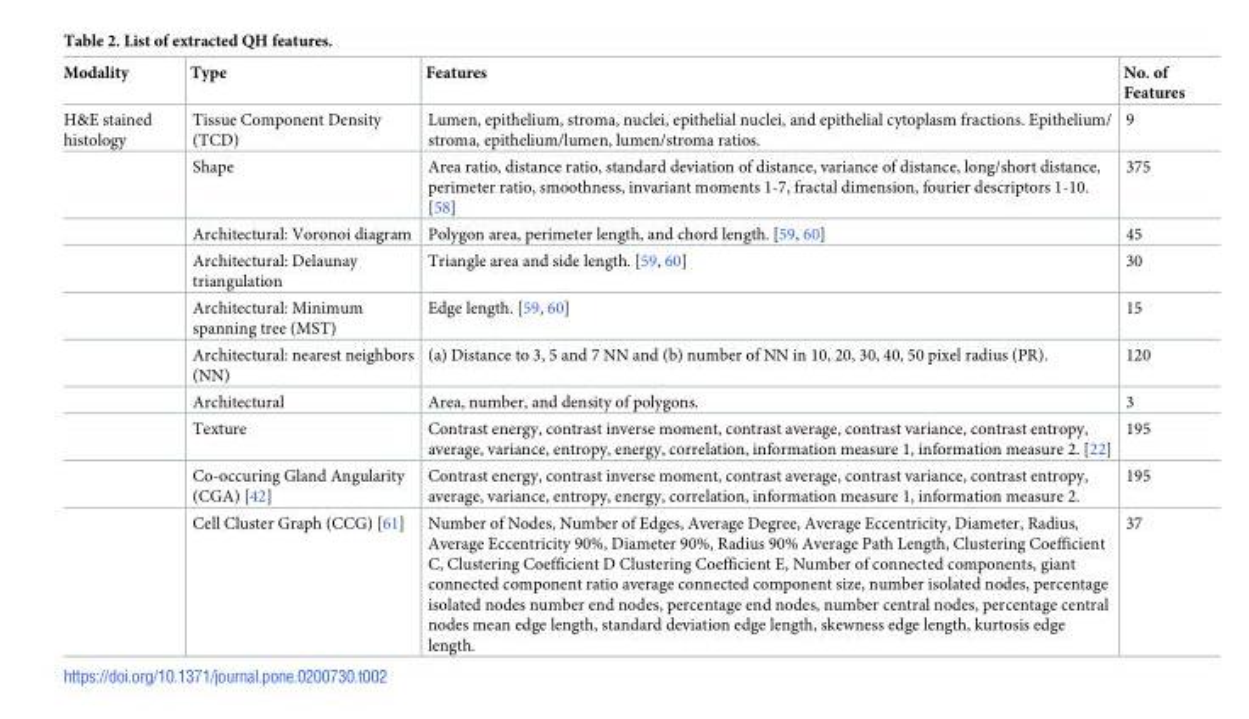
<table><thead><tr><td>Modality</td><td>Type</td><td>Features</td><td>No. of Features</td></tr></thead><tbody><tr><td rowspan="10">H&amp;E stained histology</td><td>Tissue Component Density (TCD)</td><td>Lumen, epithelium, stroma, nuclei, epithelial nuclei, and epithelial cytoplasm fractions. Epithelium/ stroma, epithelium/lumen, lumen/stroma ratios.</td><td>9</td></tr><tr><td>Shape</td><td>Area ratio, distance ratio, standard deviation of distance, variance of distance, long/short distance, perimeter ratio, smoothness, invariant moments 1-7, fractal dimension, fourier descriptors 1-10. [58]</td><td>375</td></tr><tr><td>Architectural: Voronoi diagram</td><td>Polygon area, perimeter length, and chord length. [59, 60]</td><td>45</td></tr><tr><td>Architectural: Delaunay triangulation</td><td>Triangle area and side length. [59, 60]</td><td>30</td></tr><tr><td>Architectural: Minimum spanning tree (MST)</td><td>Edge length. [59, 60]</td><td>15</td></tr><tr><td>Architectural: nearest neighbors (NN)</td><td>(a) Distance to 3, 5 and 7 NN and (b) number of NN in 10, 20, 30, 40, 50 pixel radius (PR).</td><td>120</td></tr><tr><td>Architectural</td><td>Area, number, and density of polygons.</td><td>3</td></tr><tr><td>Texture</td><td>Contrast energy, contrast inverse moment, contrast average, contrast variance, contrast entropy, average, variance, entropy, energy, correlation, information measure 1, information measure 2. [22]</td><td>195</td></tr><tr><td>Co-occuring Gland Angularity (CGA) [42]</td><td>Contrast energy, contrast inverse moment, contrast average, contrast variance, contrast entropy, average, variance, entropy, energy, correlation, information measure 1, information measure 2.</td><td>195</td></tr><tr><td>Cell Cluster Graph (CCG) [61]</td><td>Number of Nodes, Number of Edges, Average Degree, Average Eccentricity, Diameter, Radius, Average Eccentricity 90%, Diameter 90%, Radius 90% Average Path Length, Clustering Coefficient C, Clustering Coefficient D Clustering Coefficient E, Number of connected components, giant connected component ratio average connected component size, number isolated nodes, percentage isolated nodes number end nodes, percentage end nodes, number central nodes, percentage central nodes mean edge length, standard deviation edge length, skewness edge length, kurtosis edge length.</td><td>37</td></tr></tbody></table>